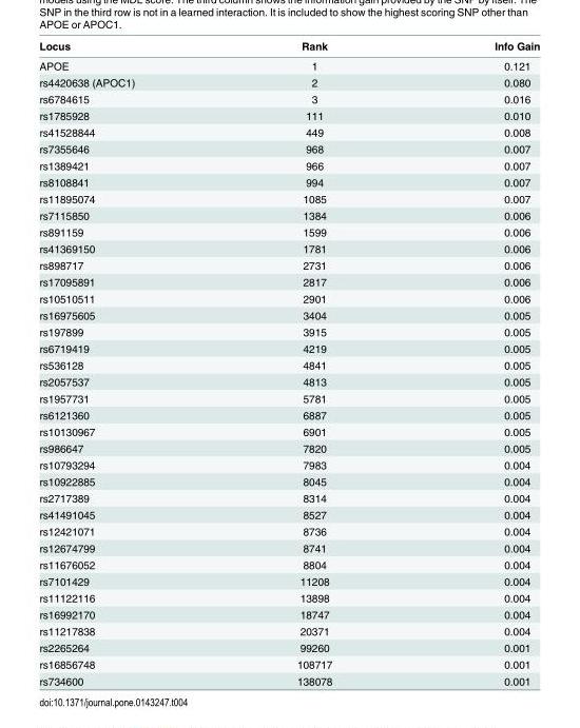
<table><thead><tr><td>Locus</td><td>Rank</td><td>Info Gain</td></tr></thead><tbody><tr><td>APOE</td><td>1</td><td>0.121</td></tr><tr><td>rs4420638 (APOC1)</td><td>2</td><td>0.080</td></tr><tr><td>rs6784615</td><td>3</td><td>0.016</td></tr><tr><td>rs1785928</td><td>111</td><td>0.010</td></tr><tr><td>rs41528844</td><td>449</td><td>0.008</td></tr><tr><td>rs7355646</td><td>968</td><td>0.007</td></tr><tr><td>rs1389421</td><td>966</td><td>0.007</td></tr><tr><td>rs8108841</td><td>994</td><td>0.007</td></tr><tr><td>rs11895074</td><td>1085</td><td>0.007</td></tr><tr><td>rs7115850</td><td>1384</td><td>0.006</td></tr><tr><td>rs891159</td><td>1599</td><td>0.006</td></tr><tr><td>rs41369150</td><td>1781</td><td>0.006</td></tr><tr><td>rs898717</td><td>2731</td><td>0.006</td></tr><tr><td>rs17095891</td><td>2817</td><td>0.006</td></tr><tr><td>rs10510511</td><td>2901</td><td>0.006</td></tr><tr><td>rs16975605</td><td>3404</td><td>0.005</td></tr><tr><td>rs197899</td><td>3915</td><td>0.005</td></tr><tr><td>rs6719419</td><td>4219</td><td>0.005</td></tr><tr><td>rs536128</td><td>4841</td><td>0.005</td></tr><tr><td>rs2057537</td><td>4813</td><td>0.005</td></tr><tr><td>rs1957731</td><td>5781</td><td>0.005</td></tr><tr><td>rs6121360</td><td>6887</td><td>0.005</td></tr><tr><td>rs10130967</td><td>6901</td><td>0.005</td></tr><tr><td>rs986647</td><td>7820</td><td>0.005</td></tr><tr><td>rs10793294</td><td>7983</td><td>0.004</td></tr><tr><td>rs10922885</td><td>8045</td><td>0.004</td></tr><tr><td>rs2717389</td><td>8314</td><td>0.004</td></tr><tr><td>rs41491045</td><td>8527</td><td>0.004</td></tr><tr><td>rs12421071</td><td>8736</td><td>0.004</td></tr><tr><td>rs12674799</td><td>8741</td><td>0.004</td></tr><tr><td>rs11676052</td><td>8804</td><td>0.004</td></tr><tr><td>rs7101429</td><td>11208</td><td>0.004</td></tr><tr><td>rs11122116</td><td>13898</td><td>0.004</td></tr><tr><td>rs16992170</td><td>18747</td><td>0.004</td></tr><tr><td>rs11217838</td><td>20371</td><td>0.004</td></tr><tr><td>rs2265264</td><td>99260</td><td>0.001</td></tr><tr><td>rs16856748</td><td>108717</td><td>0.001</td></tr><tr><td>rs734600</td><td>138078</td><td>0.001</td></tr></tbody></table>